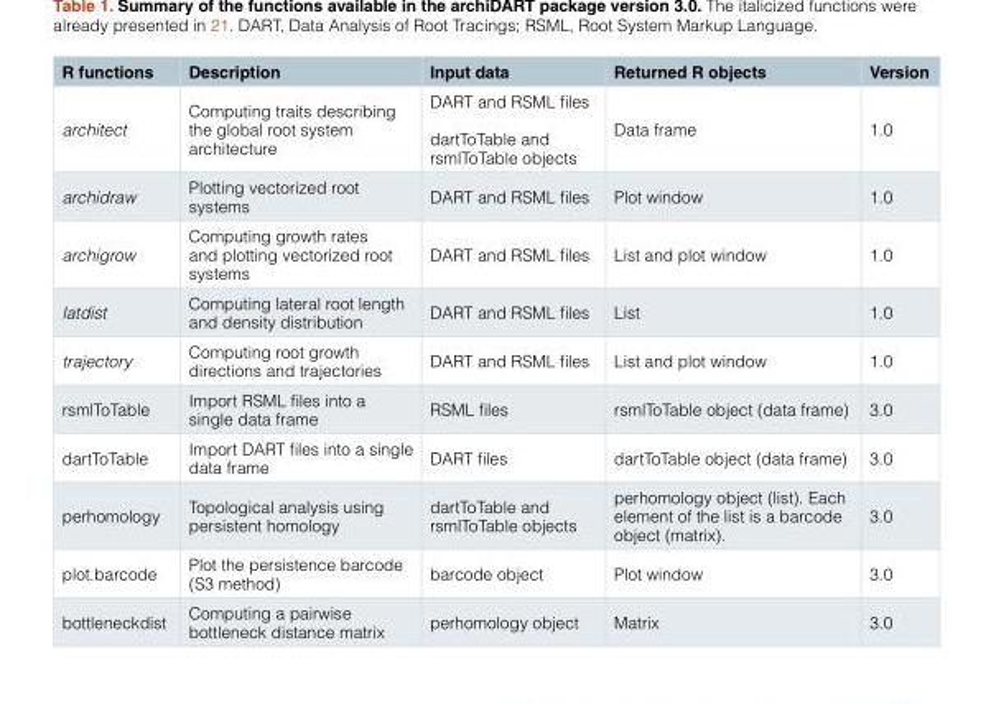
<table><thead><tr><td>R functions</td><td>Description</td><td>Input data</td><td>Returned R objects</td><td>Version</td></tr></thead><tbody><tr><td>architect</td><td>Computing traits describing the global root system architecture</td><td>DART and RSML files dartToTable and rsmlToTable objects</td><td>Data frame</td><td>1.0</td></tr><tr><td>archidraw</td><td>Plotting vectorized root systems</td><td>DART and RSML files</td><td>Plot window</td><td>1.0</td></tr><tr><td>archigrow</td><td>Computing growth rates and plotting vectorized root systems</td><td>DART and RSML files</td><td>List and plot window</td><td>1.0</td></tr><tr><td>latdist</td><td>Computing lateral root length and density distribution</td><td>DART and RSML files</td><td>List</td><td>1.0</td></tr><tr><td>trajectory</td><td>Computing root growth directions and trajectories</td><td>DART and RSML files</td><td>List and plot window</td><td>1.0</td></tr><tr><td>rsmlToTable</td><td>Import RSML files into a single data frame</td><td>RSML files</td><td>rsmlToTable object (data frame)</td><td>3.0</td></tr><tr><td>dartToTable</td><td>Import DART files into a single data frame</td><td>DART files</td><td>dartToTable object (data frame)</td><td>3.0</td></tr><tr><td>perhomology</td><td>Topological analysis using persistent homology</td><td>dartToTable and rsmlToTable objects</td><td>perhomology object (list). Each element of the list is a barcode object (matrix).</td><td>3.0</td></tr><tr><td>plot.barcode</td><td>Plot the persistence barcode (S3 method)</td><td>barcode object</td><td>Plot window</td><td>3.0</td></tr><tr><td>bottleneckdist</td><td>Computing a pairwise bottleneck distance matrix</td><td>perhomology object</td><td>Matrix</td><td>3.0</td></tr></tbody></table>